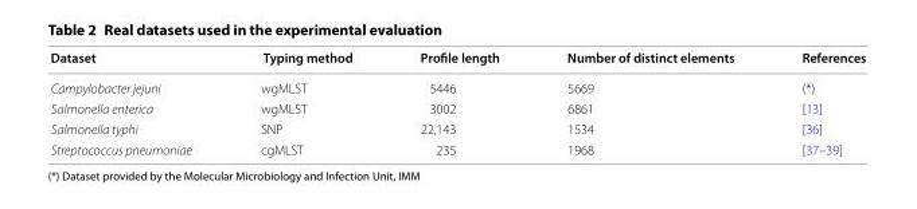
<table><thead><tr><td>Dataset</td><td>Typing method</td><td>Profile length</td><td>Number of distinct elements</td><td>References</td></tr></thead><tbody><tr><td>Campylobacter jejuni</td><td>wgMLST</td><td>5446</td><td>5669</td><td>(*)</td></tr><tr><td>Salmonella enterica</td><td>wgMLST</td><td>3002</td><td>6861</td><td>[13]</td></tr><tr><td>Salmonella typhi</td><td>SNP</td><td>22,143</td><td>1534</td><td>[36]</td></tr><tr><td>Streptococcus pneumoniae</td><td>cgMLST</td><td>235</td><td>1968</td><td>[37–39]</td></tr></tbody></table>